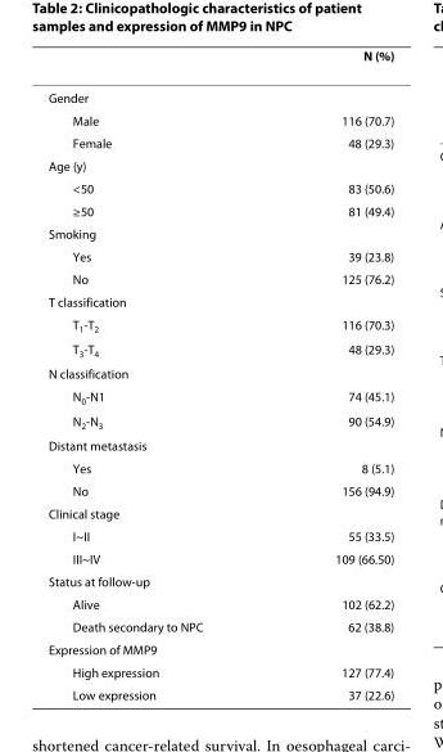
<table><thead><tr><td></td><td>N (%)</td></tr></thead><tbody><tr><td colspan="2">Gender</td></tr><tr><td>Male</td><td>116 (70.7)</td></tr><tr><td>Female</td><td>48 (29.3)</td></tr><tr><td colspan="2">Age (y)</td></tr><tr><td>&lt;50</td><td>83 (50.6)</td></tr><tr><td>≥50</td><td>81 (49.4)</td></tr><tr><td colspan="2">Smoking</td></tr><tr><td>Yes</td><td>39 (23.8)</td></tr><tr><td>No</td><td>125 (76.2)</td></tr><tr><td colspan="2">T classification</td></tr><tr><td>T<sub>1</sub>-T<sub>2</sub></td><td>116 (70.3)</td></tr><tr><td>T<sub>3</sub>-T<sub>4</sub></td><td>48 (29.3)</td></tr><tr><td colspan="2">N classification</td></tr><tr><td>N<sub>0</sub>-N1</td><td>74 (45.1)</td></tr><tr><td>N<sub>2</sub>-N<sub>3</sub></td><td>90 (54.9)</td></tr><tr><td colspan="2">Distant metastasis</td></tr><tr><td>Yes</td><td>8 (5.1)</td></tr><tr><td>No</td><td>156 (94.9)</td></tr><tr><td colspan="2">Clinical stage</td></tr><tr><td>I~II</td><td>55 (33.5)</td></tr><tr><td>III~IV</td><td>109 (66.50)</td></tr><tr><td colspan="2">Status at follow-up</td></tr><tr><td>Alive</td><td>102 (62.2)</td></tr><tr><td>Death secondary to NPC</td><td>62 (38.8)</td></tr><tr><td colspan="2">Expression of MMP9</td></tr><tr><td>High expression</td><td>127 (77.4)</td></tr><tr><td>Low expression</td><td>37 (22.6)</td></tr></tbody></table>